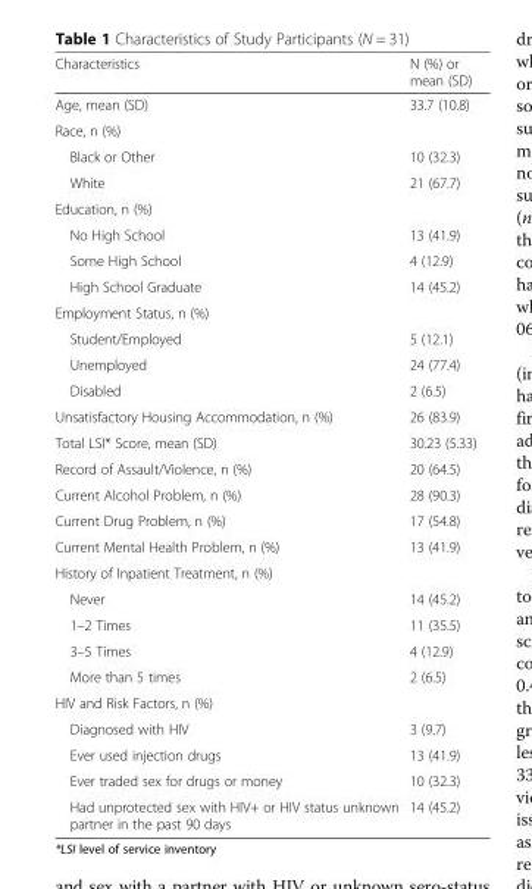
<table><thead><tr><td>Characteristics</td><td>N (%) or mean (SD)</td></tr></thead><tbody><tr><td>Age, mean (SD)</td><td>33.7 (10.8)</td></tr><tr><td colspan="2">Race, n (%)</td></tr><tr><td>Black or Other</td><td>10 (32.3)</td></tr><tr><td>White</td><td>21 (67.7)</td></tr><tr><td colspan="2">Education, n (%)</td></tr><tr><td>No High School</td><td>13 (41.9)</td></tr><tr><td>Some High School</td><td>4 (12.9)</td></tr><tr><td>High School Graduate</td><td>14 (45.2)</td></tr><tr><td colspan="2">Employment Status, n (%)</td></tr><tr><td>Student/Employed</td><td>5 (12.1)</td></tr><tr><td>Unemployed</td><td>24 (77.4)</td></tr><tr><td>Disabled</td><td>2 (6.5)</td></tr><tr><td>Unsatisfactory Housing Accommodation, n (%)</td><td>26 (83.9)</td></tr><tr><td>Total LSI* Score, mean (SD)</td><td>30.23 (5.33)</td></tr><tr><td>Record of Assault/Violence, n (%)</td><td>20 (64.5)</td></tr><tr><td>Current Alcohol Problem, n (%)</td><td>28 (90.3)</td></tr><tr><td>Current Drug Problem, n (%)</td><td>17 (54.8)</td></tr><tr><td>Current Mental Health Problem, n (%)</td><td>13 (41.9)</td></tr><tr><td colspan="2">History of Inpatient Treatment, n (%)</td></tr><tr><td>Never</td><td>14 (45.2)</td></tr><tr><td>1–2 Times</td><td>11 (35.5)</td></tr><tr><td>3–5 Times</td><td>4 (12.9)</td></tr><tr><td>More than 5 times</td><td>2 (6.5)</td></tr><tr><td colspan="2">HIV and Risk Factors, n (%)</td></tr><tr><td>Diagnosed with HIV</td><td>3 (9.7)</td></tr><tr><td>Ever used injection drugs</td><td>13 (41.9)</td></tr><tr><td>Ever traded sex for drugs or money</td><td>10 (32.3)</td></tr><tr><td>Had unprotected sex with HIV+ or HIV status unknown partner in the past 90 days</td><td>14 (45.2)</td></tr></tbody></table>